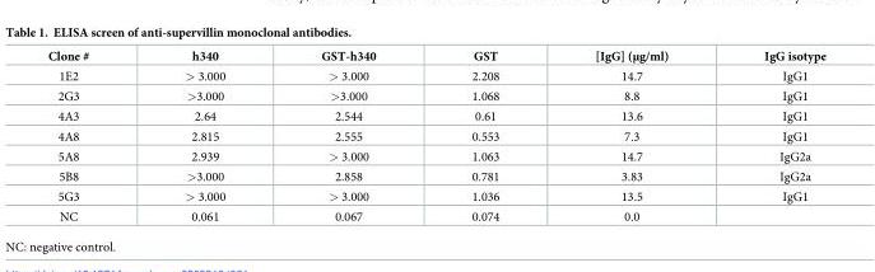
<table><thead><tr><td>Clone #</td><td>h340</td><td>GST-h340</td><td>GST</td><td>[IgG] (μg/ml)</td><td>IgG isotype</td></tr></thead><tbody><tr><td>1E2</td><td>&gt; 3.000</td><td>&gt; 3.000</td><td>2.208</td><td>14.7</td><td>IgG1</td></tr><tr><td>2G3</td><td>&gt;3.000</td><td>&gt;3.000</td><td>1.068</td><td>8.8</td><td>IgG1</td></tr><tr><td>4A3</td><td>2.64</td><td>2.544</td><td>0.61</td><td>13.6</td><td>IgG1</td></tr><tr><td>4A8</td><td>2.815</td><td>2.555</td><td>0.553</td><td>7.3</td><td>IgG1</td></tr><tr><td>5A8</td><td>2.939</td><td>&gt; 3.000</td><td>1.063</td><td>14.7</td><td>IgG2a</td></tr><tr><td>5B8</td><td>&gt;3.000</td><td>2.858</td><td>0.781</td><td>3.83</td><td>IgG2a</td></tr><tr><td>5G3</td><td>&gt; 3.000</td><td>&gt; 3.000</td><td>1.036</td><td>13.5</td><td>IgG1</td></tr><tr><td>NC</td><td>0.061</td><td>0.067</td><td>0.074</td><td>0.0</td><td></td></tr></tbody></table>